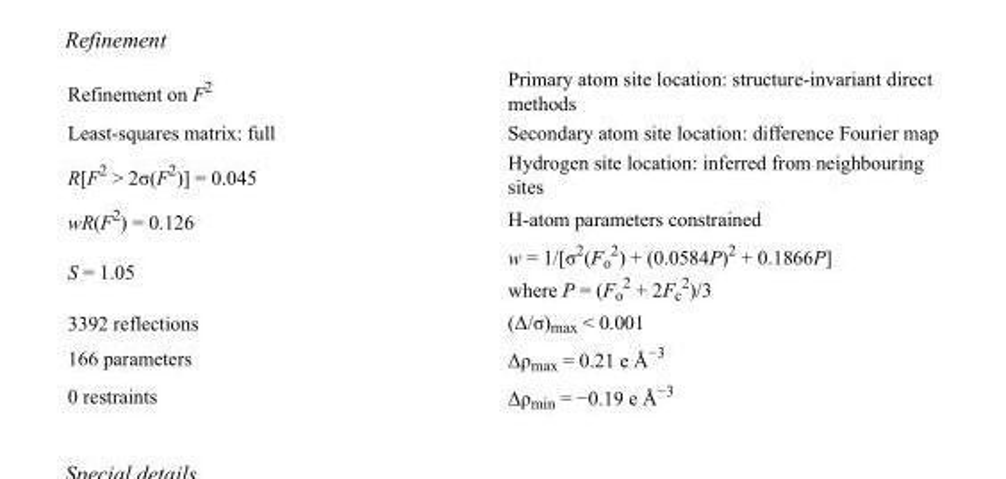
<table><tbody><tr><td>Refinement on F<sup>2</sup></td><td>Primary atom site location: structure-invariant direct methods</td></tr><tr><td>Least-squares matrix: full</td><td>Secondary atom site location: difference Fourier map</td></tr><tr><td>R[F<sup>2</sup> &gt; 2σ(F<sup>2</sup>)] = 0.045</td><td>Hydrogen site location: inferred from neighbouring sites</td></tr><tr><td>wR(F<sup>2</sup>) = 0.126</td><td>H-atom parameters constrained</td></tr><tr><td>S = 1.05</td><td>w = 1/[σ<sup>2</sup>(F<sub>o</sub> <sup>2</sup>) + (0.0584P)<sup>2</sup> + 0.1866P] where P = (F<sub>o</sub> <sup>2</sup> + 2F<sub>c</sub> <sup>2</sup>)/3</td></tr><tr><td>3392 reflections</td><td>(Δ/σ)<sub>max</sub> &lt; 0.001</td></tr><tr><td>166 parameters</td><td>Δρ<sub>max</sub> = 0.21 e Å<sup>−3</sup></td></tr><tr><td>0 restraints</td><td>Δρ<sub>min</sub> = −0.19 e Å<sup>−3</sup></td></tr></tbody></table>